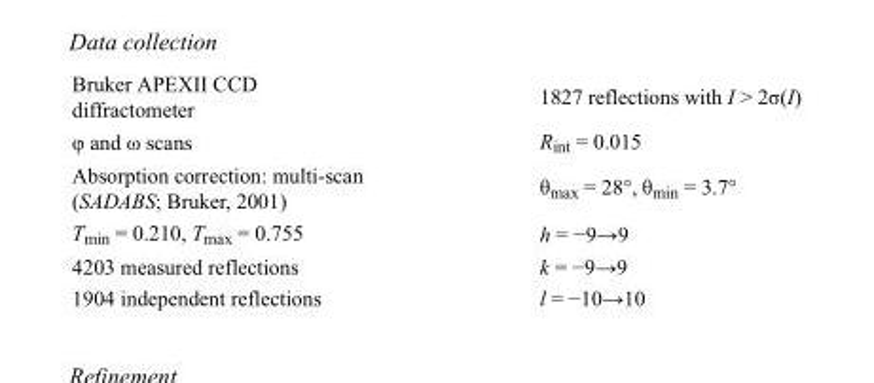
<table><tbody><tr><td>Bruker APEXII CCD diffractometer</td><td>1827 reflections with I &gt; 2σ(I)</td></tr><tr><td>φ and ω scans</td><td>R<sub>int</sub> = 0.015</td></tr><tr><td>Absorption correction: multi-scan (SADABS; Bruker, 2001)</td><td>θ<sub>max</sub> = 28°, θ<sub>min</sub> = 3.7°</td></tr><tr><td>T<sub>min</sub> = 0.210, T<sub>max</sub> = 0.755</td><td>h = −9→9</td></tr><tr><td>4203 measured reflections</td><td>k = −9→9</td></tr><tr><td>1904 independent reflections</td><td>l = −10→10</td></tr></tbody></table>